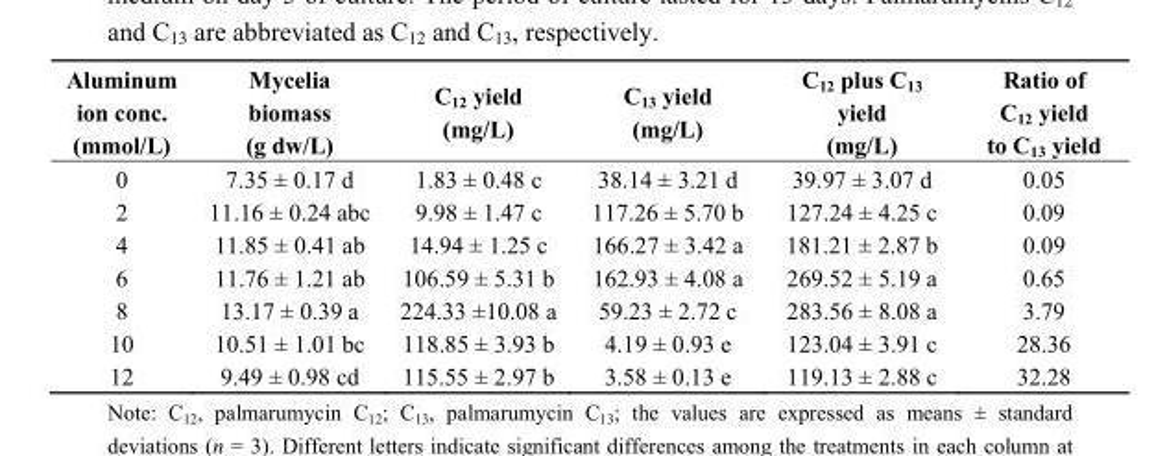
<table><thead><tr><td>Aluminum ion conc. (mmol/L)</td><td>Mycelia biomass (g dw/L)</td><td>C<sub>12</sub> yield (mg/L)</td><td>C<sub>13</sub> yield (mg/L)</td><td>C<sub>12</sub> plus C<sub>13</sub> yield (mg/L)</td><td>Ratio of C<sub>12</sub> yield to C<sub>13</sub> yield</td></tr></thead><tbody><tr><td>0</td><td>7.35 ± 0.17 d</td><td>1.83 ± 0.48 c</td><td>38.14 ± 3.21 d</td><td>39.97 ± 3.07 d</td><td>0.05</td></tr><tr><td>2</td><td>11.16 ± 0.24 abc</td><td>9.98 ± 1.47 c</td><td>117.26 ± 5.70 b</td><td>127.24 ± 4.25 c</td><td>0.09</td></tr><tr><td>4</td><td>11.85 ± 0.41 ab</td><td>14.94 ± 1.25 c</td><td>166.27 ± 3.42 a</td><td>181.21 ± 2.87 b</td><td>0.09</td></tr><tr><td>6</td><td>11.76 ± 1.21 ab</td><td>106.59 ± 5.31 b</td><td>162.93 ± 4.08 a</td><td>269.52 ± 5.19 a</td><td>0.65</td></tr><tr><td>8</td><td>13.17 ± 0.39 a</td><td>224.33 ±10.08 a</td><td>59.23 ± 2.72 c</td><td>283.56 ± 8.08 a</td><td>3.79</td></tr><tr><td>10</td><td>10.51 ± 1.01 bc</td><td>118.85 ± 3.93 b</td><td>4.19 ± 0.93 e</td><td>123.04 ± 3.91 c</td><td>28.36</td></tr><tr><td>12</td><td>9.49 ± 0.98 cd</td><td>115.55 ± 2.97 b</td><td>3.58 ± 0.13 e</td><td>119.13 ± 2.88 c</td><td>32.28</td></tr></tbody></table>